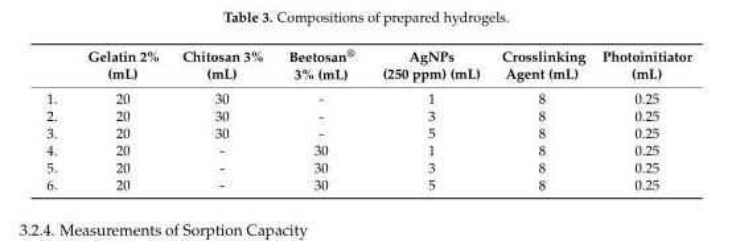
<table><thead><tr><td></td><td>Gelatin 2% (mL)</td><td>Chitosan 3% (mL)</td><td>Beetosan<sup>®</sup> 3% (mL)</td><td>AgNPs (250 ppm) (mL)</td><td>Crosslinking Agent (mL)</td><td>Photoinitiator (mL)</td></tr></thead><tbody><tr><td>1.</td><td>20</td><td>30</td><td>-</td><td>1</td><td>8</td><td>0.25</td></tr><tr><td>2.</td><td>20</td><td>30</td><td>-</td><td>3</td><td>8</td><td>0.25</td></tr><tr><td>3.</td><td>20</td><td>30</td><td>-</td><td>5</td><td>8</td><td>0.25</td></tr><tr><td>4.</td><td>20</td><td>-</td><td>30</td><td>1</td><td>8</td><td>0.25</td></tr><tr><td>5.</td><td>20</td><td>-</td><td>30</td><td>3</td><td>8</td><td>0.25</td></tr><tr><td>6.</td><td>20</td><td>-</td><td>30</td><td>5</td><td>8</td><td>0.25</td></tr></tbody></table>